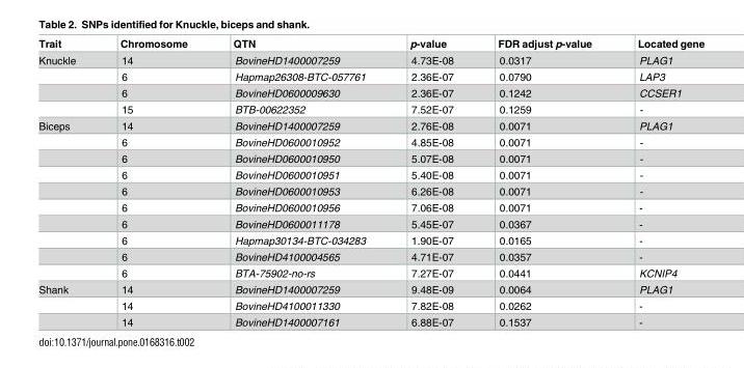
<table><thead><tr><td>Trait</td><td>Chromosome</td><td>QTN</td><td>p-value</td><td>FDR adjust p-value</td><td>Located gene</td></tr></thead><tbody><tr><td rowspan="4">Knuckle</td><td>14</td><td>BovineHD1400007259</td><td>4.73E-08</td><td>0.0317</td><td>PLAG1</td></tr><tr><td>6</td><td>Hapmap26308-BTC-057761</td><td>2.36E-07</td><td>0.0790</td><td>LAP3</td></tr><tr><td>6</td><td>BovineHD0600009630</td><td>2.36E-07</td><td>0.1242</td><td>CCSER1</td></tr><tr><td>15</td><td>BTB-00622352</td><td>7.52E-07</td><td>0.1259</td><td>-</td></tr><tr><td rowspan="10">Biceps</td><td>14</td><td>BovineHD1400007259</td><td>2.76E-08</td><td>0.0071</td><td>PLAG1</td></tr><tr><td>6</td><td>BovineHD0600010952</td><td>4.85E-08</td><td>0.0071</td><td>-</td></tr><tr><td>6</td><td>BovineHD0600010950</td><td>5.07E-08</td><td>0.0071</td><td>-</td></tr><tr><td>6</td><td>BovineHD0600010951</td><td>5.40E-08</td><td>0.0071</td><td>-</td></tr><tr><td>6</td><td>BovineHD0600010953</td><td>6.26E-08</td><td>0.0071</td><td>-</td></tr><tr><td>6</td><td>BovineHD0600010956</td><td>7.06E-08</td><td>0.0071</td><td>-</td></tr><tr><td>6</td><td>BovineHD0600011178</td><td>5.45E-07</td><td>0.0367</td><td>-</td></tr><tr><td>6</td><td>Hapmap30134-BTC-034283</td><td>1.90E-07</td><td>0.0165</td><td>-</td></tr><tr><td>6</td><td>BovineHD4100004565</td><td>4.71E-07</td><td>0.0357</td><td>-</td></tr><tr><td>6</td><td>BTA-75902-no-rs</td><td>7.27E-07</td><td>0.0441</td><td>KCNIP4</td></tr><tr><td rowspan="3">Shank</td><td>14</td><td>BovineHD1400007259</td><td>9.48E-09</td><td>0.0064</td><td>PLAG1</td></tr><tr><td>14</td><td>BovineHD4100011330</td><td>7.82E-08</td><td>0.0262</td><td>-</td></tr><tr><td>14</td><td>BovineHD1400007161</td><td>6.88E-07</td><td>0.1537</td><td>-</td></tr></tbody></table>